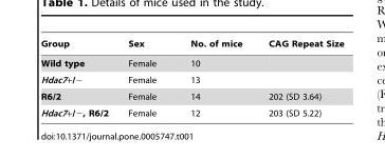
<table><thead><tr><td>Group</td><td>Sex</td><td>No. of mice</td><td>CAG Repeat Size</td></tr></thead><tbody><tr><td>Wild type</td><td>Female</td><td>10</td><td></td></tr><tr><td>Hdac7+/−</td><td>Female</td><td>13</td><td></td></tr><tr><td>R6/2</td><td>Female</td><td>14</td><td>202 (SD 3.64)</td></tr><tr><td>Hdac7+/−, R6/2</td><td>Female</td><td>12</td><td>203 (SD 5.22)</td></tr></tbody></table>